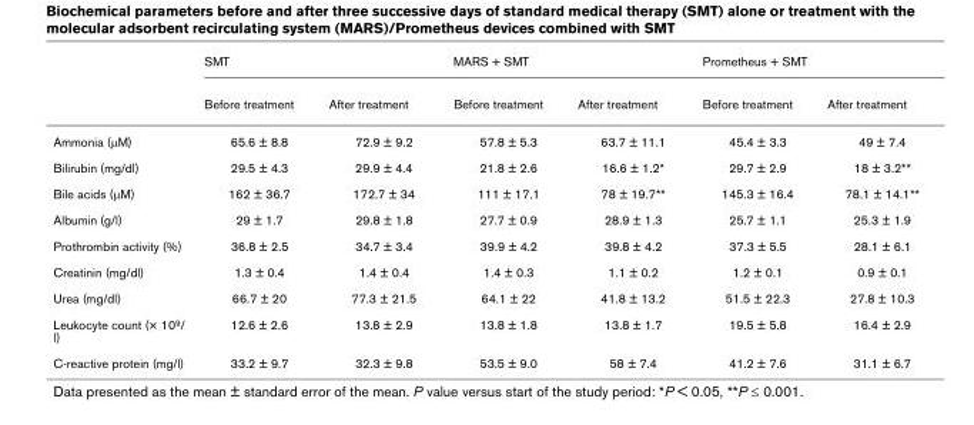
<table><thead><tr><td rowspan="2"></td><td colspan="2">SMT</td><td colspan="2">MARS + SMT</td><td colspan="2">Prometheus + SMT</td></tr><tr><td>Before treatment</td><td>After treatment</td><td>Before treatment</td><td>After treatment</td><td>Before treatment</td><td>After treatment</td></tr></thead><tbody><tr><td>Ammonia (µM)</td><td>65.6 ± 8.8</td><td>72.9 ± 9.2</td><td>57.8 ± 5.3</td><td>63.7 ± 11.1</td><td>45.4 ± 3.3</td><td>49 ± 7.4</td></tr><tr><td>Bilirubin (mg/dl)</td><td>29.5 ± 4.3</td><td>29.9 ± 4.4</td><td>21.8 ± 2.6</td><td>16.6 ± 1.2*</td><td>29.7 ± 2.9</td><td>18 ± 3.2**</td></tr><tr><td>Bile acids (µM)</td><td>162 ± 36.7</td><td>172.7 ± 34</td><td>111 ± 17.1</td><td>78 ± 19.7**</td><td>145.3 ± 16.4</td><td>78.1 ± 14.1**</td></tr><tr><td>Albumin (g/l)</td><td>29 ± 1.7</td><td>29.8 ± 1.8</td><td>27.7 ± 0.9</td><td>28.9 ± 1.3</td><td>25.7 ± 1.1</td><td>25.3 ± 1.9</td></tr><tr><td>Prothrombin activity (%)</td><td>36.8 ± 2.5</td><td>34.7 ± 3.4</td><td>39.9 ± 4.2</td><td>39.8 ± 4.2</td><td>37.3 ± 5.5</td><td>28.1 ± 6.1</td></tr><tr><td>Creatinin (mg/dl)</td><td>1.3 ± 0.4</td><td>1.4 ± 0.4</td><td>1.4 ± 0.3</td><td>1.1 ± 0.2</td><td>1.2 ± 0.1</td><td>0.9 ± 0.1</td></tr><tr><td>Urea (mg/dl)</td><td>66.7 ± 20</td><td>77.3 ± 21.5</td><td>64.1 ± 22</td><td>41.8 ± 13.2</td><td>51.5 ± 22.3</td><td>27.8 ± 10.3</td></tr><tr><td>Leukocyte count (× 109/ l)</td><td>12.6 ± 2.6</td><td>13.8 ± 2.9</td><td>13.8 ± 1.8</td><td>13.8 ± 1.7</td><td>19.5 ± 5.8</td><td>16.4 ± 2.9</td></tr><tr><td>C-reactive protein (mg/l)</td><td>33.2 ± 9.7</td><td>32.3 ± 9.8</td><td>53.5 ± 9.0</td><td>58 ± 7.4</td><td>41.2 ± 7.6</td><td>31.1 ± 6.7</td></tr></tbody></table>